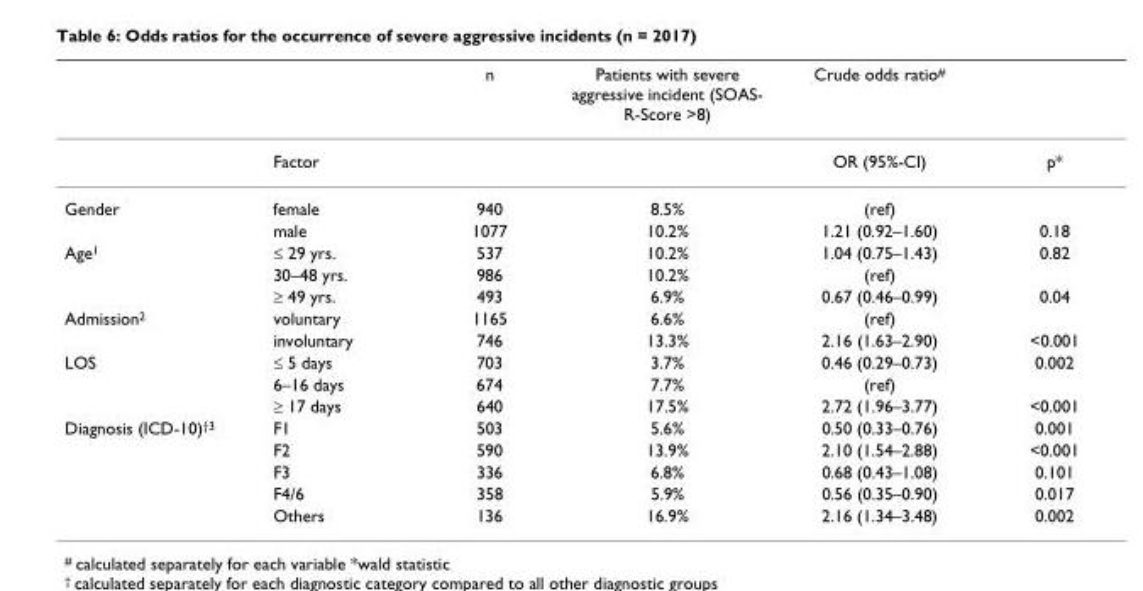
<table><thead><tr><td></td><td></td><td>n</td><td>Patients with severe aggressive incident (SOAS- R-Score &gt;8)</td><td>Crude odds ratio<sup>#</sup></td><td></td></tr></thead><tbody><tr><td></td><td>Factor</td><td></td><td></td><td>OR (95%-CI)</td><td>p*</td></tr><tr><td rowspan="2">Gender</td><td>female</td><td>940</td><td>8.5%</td><td>(ref)</td><td></td></tr><tr><td>male</td><td>1077</td><td>10.2%</td><td>1.21 (0.92–1.60)</td><td>0.18</td></tr><tr><td rowspan="3">Age<sup>1</sup></td><td>≤ 29 yrs.</td><td>537</td><td>10.2%</td><td>1.04 (0.75–1.43)</td><td>0.82</td></tr><tr><td>30–48 yrs.</td><td>986</td><td>10.2%</td><td>(ref)</td><td></td></tr><tr><td>≥ 49 yrs.</td><td>493</td><td>6.9%</td><td>0.67 (0.46–0.99)</td><td>0.04</td></tr><tr><td rowspan="2">Admission<sup>2</sup></td><td>voluntary</td><td>1165</td><td>6.6%</td><td>(ref)</td><td></td></tr><tr><td>involuntary</td><td>746</td><td>13.3%</td><td>2.16 (1.63–2.90)</td><td>&lt;0.001</td></tr><tr><td rowspan="3">LOS</td><td>≤ 5 days</td><td>703</td><td>3.7%</td><td>0.46 (0.29–0.73)</td><td>0.002</td></tr><tr><td>6–16 days</td><td>674</td><td>7.7%</td><td>(ref)</td><td></td></tr><tr><td>≥ 17 days</td><td>640</td><td>17.5%</td><td>2.72 (1.96–3.77)</td><td>&lt;0.001</td></tr><tr><td rowspan="5">Diagnosis (ICD-10)<sup>†3</sup></td><td>F1</td><td>503</td><td>5.6%</td><td>0.50 (0.33–0.76)</td><td>0.001</td></tr><tr><td>F2</td><td>590</td><td>13.9%</td><td>2.10 (1.54–2.88)</td><td>&lt;0.001</td></tr><tr><td>F3</td><td>336</td><td>6.8%</td><td>0.68 (0.43–1.08)</td><td>0.101</td></tr><tr><td>F4/6</td><td>358</td><td>5.9%</td><td>0.56 (0.35–0.90)</td><td>0.017</td></tr><tr><td>Others</td><td>136</td><td>16.9%</td><td>2.16 (1.34–3.48)</td><td>0.002</td></tr></tbody></table>